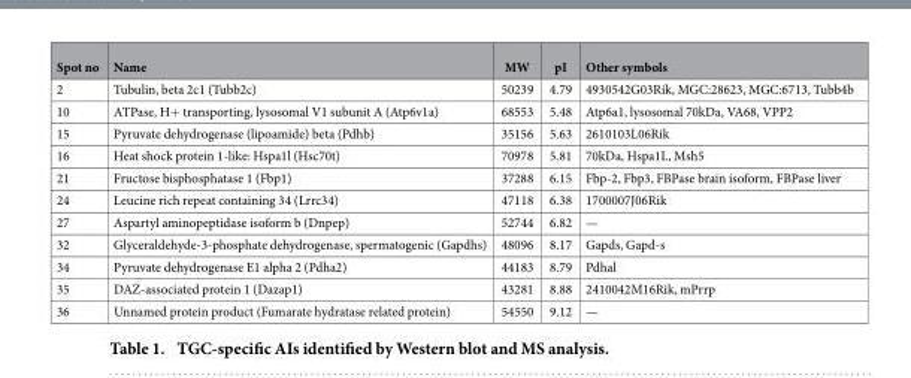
<table><thead><tr><td>Spot no</td><td>Name</td><td>MW</td><td>pI</td><td>Other symbols</td></tr></thead><tbody><tr><td>2</td><td>Tubulin, beta 2c1 (Tubb2c)</td><td>50239</td><td>4.79</td><td>4930542G03Rik, MGC:28623, MGC:6713, Tubb4b</td></tr><tr><td>10</td><td>ATPase, H+ transporting, lysosomal V1 subunit A (Atp6v1a)</td><td>68553</td><td>5.48</td><td>Atp6a1, lysosomal 70kDa, VA68, VPP2</td></tr><tr><td>15</td><td>Pyruvate dehydrogenase (lipoamide) beta (Pdhb)</td><td>35156</td><td>5.63</td><td>2610103L06Rik</td></tr><tr><td>16</td><td>Heat shock protein 1-like: Hspa1l (Hsc70t)</td><td>70978</td><td>5.81</td><td>70kDa, Hspa1L, Msh5</td></tr><tr><td>21</td><td>Fructose bisphosphatase 1 (Fbp1)</td><td>37288</td><td>6.15</td><td>Fbp-2, Fbp3, FBPase brain isoform, FBPase liver</td></tr><tr><td>24</td><td>Leucine rich repeat containing 34 (Lrrc34)</td><td>47118</td><td>6.38</td><td>1700007J06Rik</td></tr><tr><td>27</td><td>Aspartyl aminopeptidase isoform b (Dnpep)</td><td>52744</td><td>6.82</td><td>—</td></tr><tr><td>32</td><td>Glyceraldehyde-3-phosphate dehydrogenase, spermatogenic (Gapdhs)</td><td>48096</td><td>8.17</td><td>Gapds, Gapd-s</td></tr><tr><td>34</td><td>Pyruvate dehydrogenase E1 alpha 2 (Pdha2)</td><td>44183</td><td>8.79</td><td>Pdhal</td></tr><tr><td>35</td><td>DAZ-associated protein 1 (Dazap1)</td><td>43281</td><td>8.88</td><td>2410042M16Rik, mPrrp</td></tr><tr><td>36</td><td>Unnamed protein product (Fumarate hydratase related protein)</td><td>54550</td><td>9.12</td><td>—</td></tr></tbody></table>